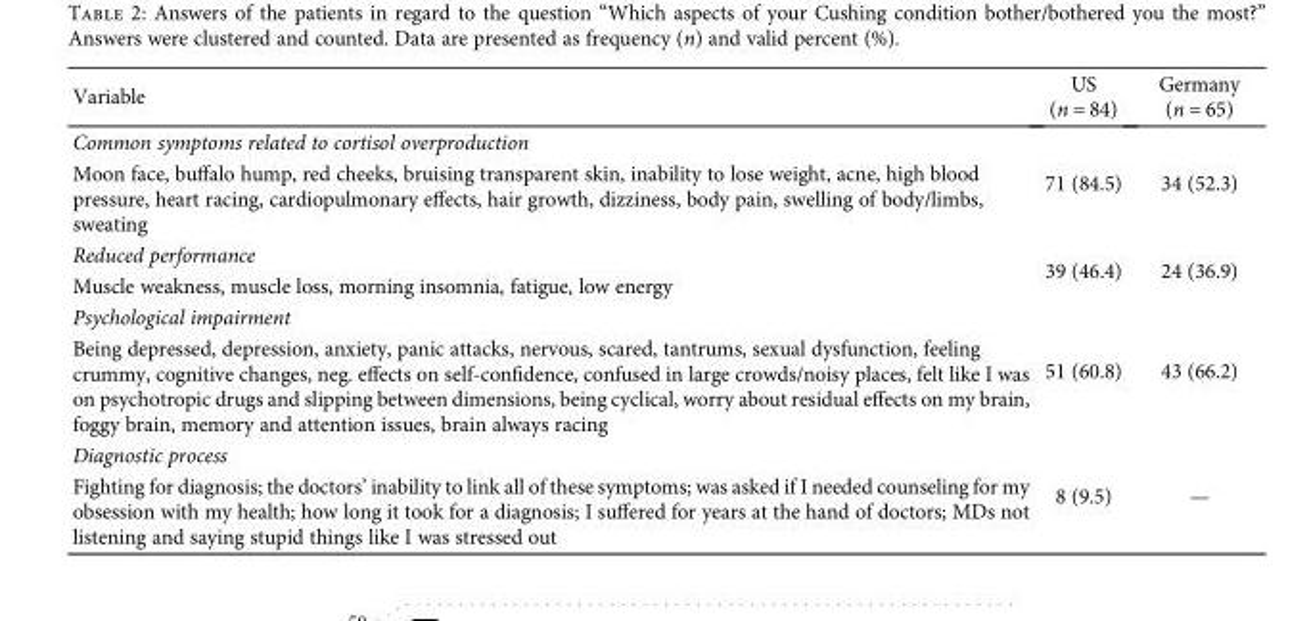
<table><thead><tr><td>Variable</td><td>US (n = 84)</td><td>Germany (n = 65)</td></tr></thead><tbody><tr><td>Common symptoms related to cortisol overproduction</td><td rowspan="2">71 (84.5)</td><td rowspan="2">34 (52.3)</td></tr><tr><td>Moon face, buffalo hump, red cheeks, bruising transparent skin, inability to lose weight, acne, high blood pressure, heart racing, cardiopulmonary effects, hair growth, dizziness, body pain, swelling of body/limbs, sweating</td></tr><tr><td>Reduced performance</td><td rowspan="2">39 (46.4)</td><td rowspan="2">24 (36.9)</td></tr><tr><td>Muscle weakness, muscle loss, morning insomnia, fatigue, low energy</td></tr><tr><td>Psychological impairment</td><td rowspan="2">51 (60.8)</td><td rowspan="2">43 (66.2)</td></tr><tr><td>Being depressed, depression, anxiety, panic attacks, nervous, scared, tantrums, sexual dysfunction, feeling crummy, cognitive changes, neg. effects on self-confidence, confused in large crowds/noisy places, felt like I was on psychotropic drugs and slipping between dimensions, being cyclical, worry about residual effects on my brain, foggy brain, memory and attention issues, brain always racing</td></tr><tr><td>Diagnostic process</td><td rowspan="2">8 (9.5)</td><td rowspan="2">—</td></tr><tr><td>Fighting for diagnosis; the doctors’ inability to link all of these symptoms; was asked if I needed counseling for my obsession with my health; how long it took for a diagnosis; I suffered for years at the hand of doctors; MDs not listening and saying stupid things like I was stressed out</td></tr></tbody></table>